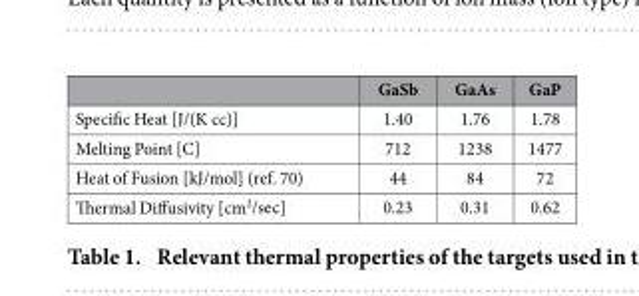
<table><thead><tr><td></td><td>GaSb</td><td>GaAs</td><td>GaP</td></tr></thead><tbody><tr><td>Specific Heat [J/(K cc)]</td><td>1.40</td><td>1.76</td><td>1.78</td></tr><tr><td>Melting Point [C]</td><td>712</td><td>1238</td><td>1477</td></tr><tr><td>Heat of Fusion [kJ/mol] (ref. 70)</td><td>44</td><td>84</td><td>72</td></tr><tr><td>Thermal Diffusivity [cm<sup>2</sup>/sec]</td><td>0.23</td><td>0.31</td><td>0.62</td></tr></tbody></table>